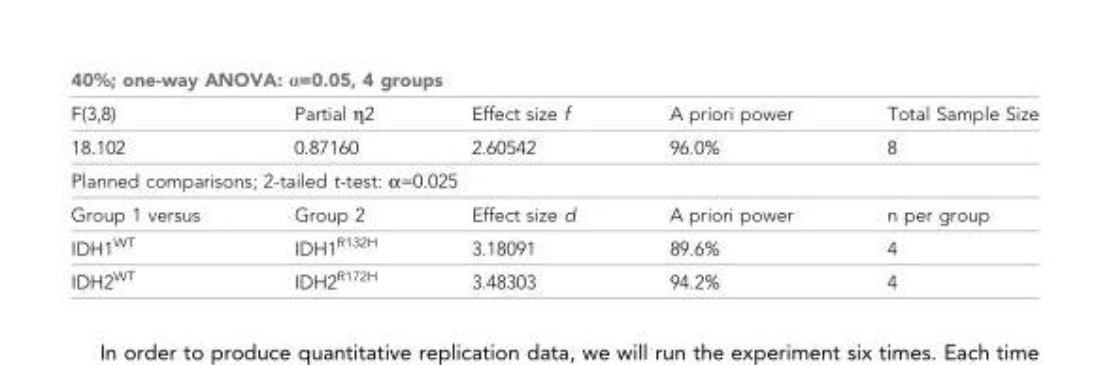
<table><thead><tr><td colspan="5">40%; one-way ANOVA: α=0.05, 4 groups</td></tr><tr><td>F(3,8)</td><td>Partial η2</td><td>Effect size f</td><td>A priori power</td><td>Total Sample Size</td></tr></thead><tbody><tr><td>18.102</td><td>0.87160</td><td>2.60542</td><td>96.0%</td><td>8</td></tr><tr><td colspan="5">Planned comparisons; 2-tailed t-test: α=0.025</td></tr><tr><td>Group 1 versus</td><td>Group 2</td><td>Effect size d</td><td>A priori power</td><td>n per group</td></tr><tr><td>IDH1<sup>WT</sup></td><td>IDH1<sup>R132H</sup></td><td>3.18091</td><td>89.6%</td><td>4</td></tr><tr><td>IDH2<sup>WT</sup></td><td>IDH2<sup>R172H</sup></td><td>3.48303</td><td>94.2%</td><td>4</td></tr></tbody></table>